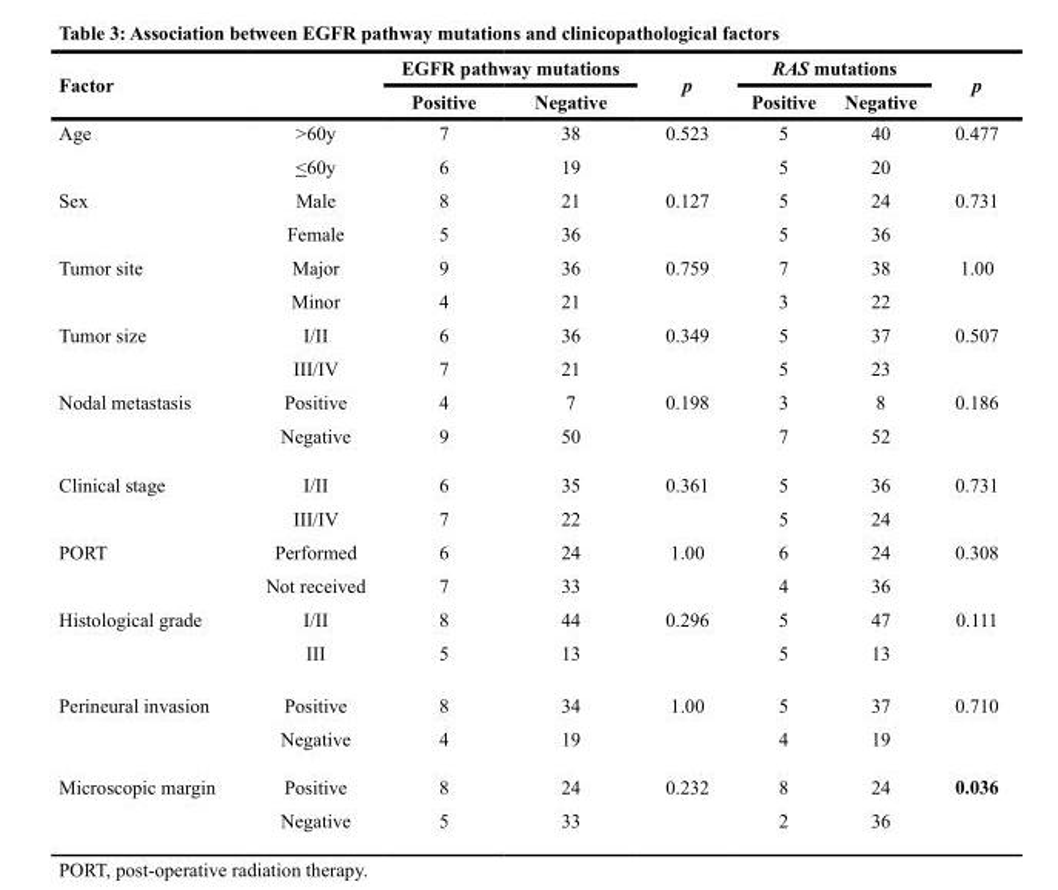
<table><thead><tr><td rowspan="2">Factor</td><td rowspan="2"></td><td colspan="2">EGFR pathway mutations</td><td rowspan="2">p</td><td colspan="2">RAS mutations</td><td rowspan="2">p</td></tr><tr><td>Positive</td><td>Negative</td><td>Positive</td><td>Negative</td></tr></thead><tbody><tr><td rowspan="2">Age</td><td>&gt;60y</td><td>7</td><td>38</td><td>0.523</td><td>5</td><td>40</td><td>0.477</td></tr><tr><td>&lt;60y</td><td>6</td><td>19</td><td></td><td>5</td><td>20</td><td></td></tr><tr><td rowspan="2">Sex</td><td>Male</td><td>8</td><td>21</td><td>0.127</td><td>5</td><td>24</td><td>0.731</td></tr><tr><td>Female</td><td>5</td><td>36</td><td></td><td>5</td><td>36</td><td></td></tr><tr><td rowspan="2">Tumor site</td><td>Major</td><td>9</td><td>36</td><td>0.759</td><td>7</td><td>38</td><td>1.00</td></tr><tr><td>Minor</td><td>4</td><td>21</td><td></td><td>3</td><td>22</td><td></td></tr><tr><td rowspan="2">Tumor size</td><td>I/II</td><td>6</td><td>36</td><td>0.349</td><td>5</td><td>37</td><td>0.507</td></tr><tr><td>III/IV</td><td>7</td><td>21</td><td></td><td>5</td><td>23</td><td></td></tr><tr><td rowspan="2">Nodal metastasis</td><td>Positive</td><td>4</td><td>7</td><td>0.198</td><td>3</td><td>8</td><td>0.186</td></tr><tr><td>Negative</td><td>9</td><td>50</td><td></td><td>7</td><td>52</td><td></td></tr><tr><td rowspan="2">Clinical stage</td><td>I/II</td><td>6</td><td>35</td><td>0.361</td><td>5</td><td>36</td><td>0.731</td></tr><tr><td>III/IV</td><td>7</td><td>22</td><td></td><td>5</td><td>24</td><td></td></tr><tr><td rowspan="2">PORT</td><td>Performed</td><td>6</td><td>24</td><td>1.00</td><td>6</td><td>24</td><td>0.308</td></tr><tr><td>Not received</td><td>7</td><td>33</td><td></td><td>4</td><td>36</td><td></td></tr><tr><td rowspan="2">Histological grade</td><td>I/II</td><td>8</td><td>44</td><td>0.296</td><td>5</td><td>47</td><td>0.111</td></tr><tr><td>III</td><td>5</td><td>13</td><td></td><td>5</td><td>13</td><td></td></tr><tr><td rowspan="2">Perineural invasion</td><td>Positive</td><td>8</td><td>34</td><td>1.00</td><td>5</td><td>37</td><td>0.710</td></tr><tr><td>Negative</td><td>4</td><td>19</td><td></td><td>4</td><td>19</td><td></td></tr><tr><td rowspan="2">Microscopic margin</td><td>Positive</td><td>8</td><td>24</td><td>0.232</td><td>8</td><td>24</td><td>0.036</td></tr><tr><td>Negative</td><td>5</td><td>33</td><td></td><td>2</td><td>36</td><td></td></tr></tbody></table>